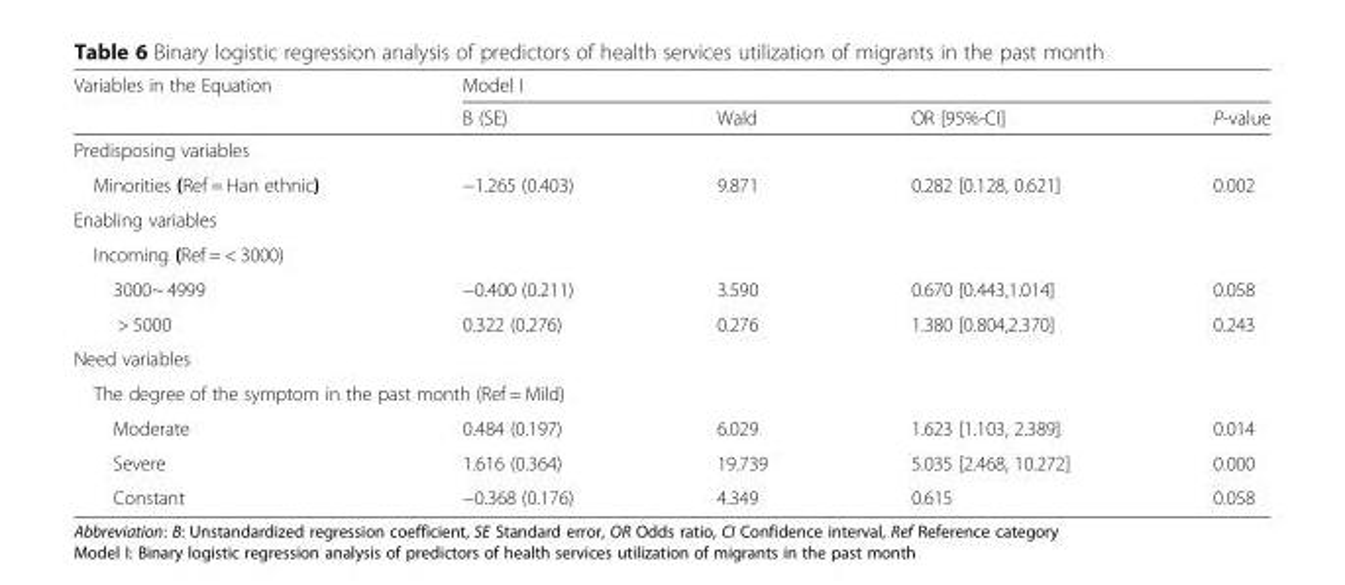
<table><thead><tr><td rowspan="2">Variables in the Equation</td><td colspan="4">Model I</td></tr><tr><td>B (SE)</td><td>Wald</td><td>OR [95%-CI]</td><td>P-value</td></tr></thead><tbody><tr><td colspan="5">Predisposing variables</td></tr><tr><td>Minorities (Ref = Han ethnic)</td><td>−1.265 (0.403)</td><td>9.871</td><td>0.282 [0.128, 0.621]</td><td>0.002</td></tr><tr><td colspan="5">Enabling variables</td></tr><tr><td colspan="5">Incoming (Ref = &lt; 3000)</td></tr><tr><td>3000~ 4999</td><td>−0.400 (0.211)</td><td>3.590</td><td>0.670 [0.443,1.014]</td><td>0.058</td></tr><tr><td>&gt; 5000</td><td>0.322 (0.276)</td><td>0.276</td><td>1.380 [0.804,2.370]</td><td>0.243</td></tr><tr><td colspan="5">Need variables</td></tr><tr><td colspan="5">The degree of the symptom in the past month (Ref = Mild)</td></tr><tr><td>Moderate</td><td>0.484 (0.197)</td><td>6.029</td><td>1.623 [1.103, 2.389]</td><td>0.014</td></tr><tr><td>Severe</td><td>1.616 (0.364)</td><td>19.739</td><td>5.035 [2.468, 10.272]</td><td>0.000</td></tr><tr><td>Constant</td><td>−0.368 (0.176)</td><td>4.349</td><td>0.615</td><td>0.058</td></tr></tbody></table>